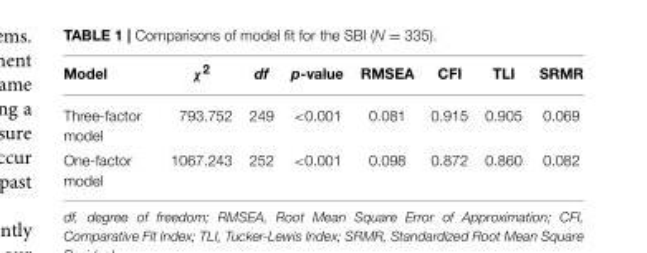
<table><thead><tr><td>Model</td><td>χ<sup>2</sup></td><td>df</td><td>p-value</td><td>RMSEA</td><td>CFI</td><td>TLI</td><td>SRMR</td></tr></thead><tbody><tr><td>Three-factor model</td><td>793.752</td><td>249</td><td>&lt;0.001</td><td>0.081</td><td>0.915</td><td>0.905</td><td>0.069</td></tr><tr><td>One-factor model</td><td>1067.243</td><td>252</td><td>&lt;0.001</td><td>0.098</td><td>0.872</td><td>0.860</td><td>0.082</td></tr></tbody></table>